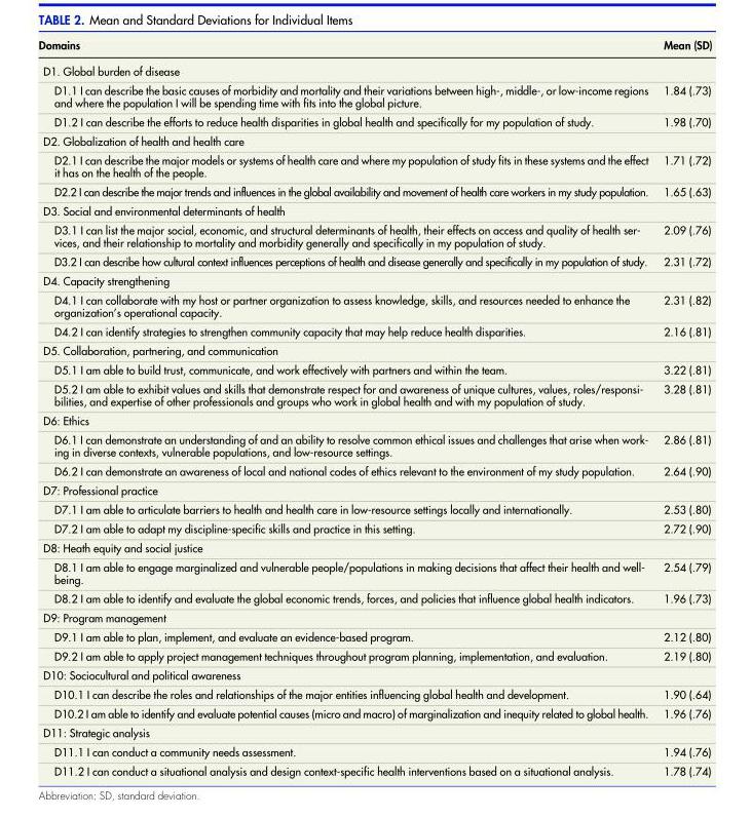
<table><thead><tr><td>Domains</td><td>Mean (SD)</td></tr></thead><tbody><tr><td colspan="2">D1. Global burden of disease</td></tr><tr><td>D1.1 I can describe the basic causes of morbidity and mortality and their variations between high-, middle-, or low-income regions and where the population I will be spending time with fits into the global picture.</td><td>1.84 (.73)</td></tr><tr><td>D1.2 I can describe the efforts to reduce health disparities in global health and specifically for my population of study.</td><td>1.98 (.70)</td></tr><tr><td colspan="2">D2. Globalization of health and health care</td></tr><tr><td>D2.1 I can describe the major models or systems of health care and where my population of study fits in these systems and the effect it has on the health of the people.</td><td>1.71 (.72)</td></tr><tr><td>D2.2 I can describe the major trends and influences in the global availability and movement of health care workers in my study population.</td><td>1.65 (.63)</td></tr><tr><td colspan="2">D3. Social and environmental determinants of health</td></tr><tr><td>D3.1 I can list the major social, economic, and structural determinants of health, their effects on access and quality of health ser- vices, and their relationship to mortality and morbidity generally and specifically in my population of study.</td><td>2.09 (.76)</td></tr><tr><td>D3.2 I can describe how cultural context influences perceptions of health and disease generally and specifically in my population of study.</td><td>2.31 (.72)</td></tr><tr><td colspan="2">D4. Capacity strengthening</td></tr><tr><td>D4.1 I can collaborate with my host or partner organization to assess knowledge, skills, and resources needed to enhance the organization’s operational capacity.</td><td>2.31 (.82)</td></tr><tr><td>D4.2 I can identify strategies to strengthen community capacity that may help reduce health disparities.</td><td>2.16 (.81)</td></tr><tr><td colspan="2">D5. Collaboration, partnering, and communication</td></tr><tr><td>D5.1 I am able to build trust, communicate, and work effectively with partners and within the team.</td><td>3.22 (.81)</td></tr><tr><td>D5.2 I am able to exhibit values and skills that demonstrate respect for and awareness of unique cultures, values, roles/responsi- bilities, and expertise of other professionals and groups who work in global health and with my population of study.</td><td>3.28 (.81)</td></tr><tr><td colspan="2">D6: Ethics</td></tr><tr><td>D6.1 I can demonstrate an understanding of and an ability to resolve common ethical issues and challenges that arise when work- ing in diverse contexts, vulnerable populations, and low-resource settings.</td><td>2.86 (.81)</td></tr><tr><td>D6.2 I can demonstrate an awareness of local and national codes of ethics relevant to the environment of my study population.</td><td>2.64 (.90)</td></tr><tr><td colspan="2">D7: Professional practice</td></tr><tr><td>D7.1 I am able to articulate barriers to health and health care in low-resource settings locally and internationally.</td><td>2.53 (.80)</td></tr><tr><td>D7.2 I am able to adapt my discipline-specific skills and practice in this setting.</td><td>2.72 (.90)</td></tr><tr><td colspan="2">D8: Heath equity and social justice</td></tr><tr><td>D8.1 I am able to engage marginalized and vulnerable people/populations in making decisions that affect their health and well- being.</td><td>2.54 (.79)</td></tr><tr><td>D8.2 I am able to identify and evaluate the global economic trends, forces, and policies that influence global health indicators.</td><td>1.96 (.73)</td></tr><tr><td colspan="2">D9: Program management</td></tr><tr><td>D9.1 I am able to plan, implement, and evaluate an evidence-based program.</td><td>2.12 (.80)</td></tr><tr><td>D9.2 I am able to apply project management techniques throughout program planning, implementation, and evaluation.</td><td>2.19 (.80)</td></tr><tr><td colspan="2">D10: Sociocultural and political awareness</td></tr><tr><td>D10.1 I can describe the roles and relationships of the major entities influencing global health and development.</td><td>1.90 (.64)</td></tr><tr><td>D10.2 I am able to identify and evaluate potential causes (micro and macro) of marginalization and inequity related to global health.</td><td>1.96 (.76)</td></tr><tr><td colspan="2">D11: Strategic analysis</td></tr><tr><td>D11.1 I can conduct a community needs assessment.</td><td>1.94 (.76)</td></tr><tr><td>D11.2 I can conduct a situational analysis and design context-specific health interventions based on a situational analysis.</td><td>1.78 (.74)</td></tr></tbody></table>